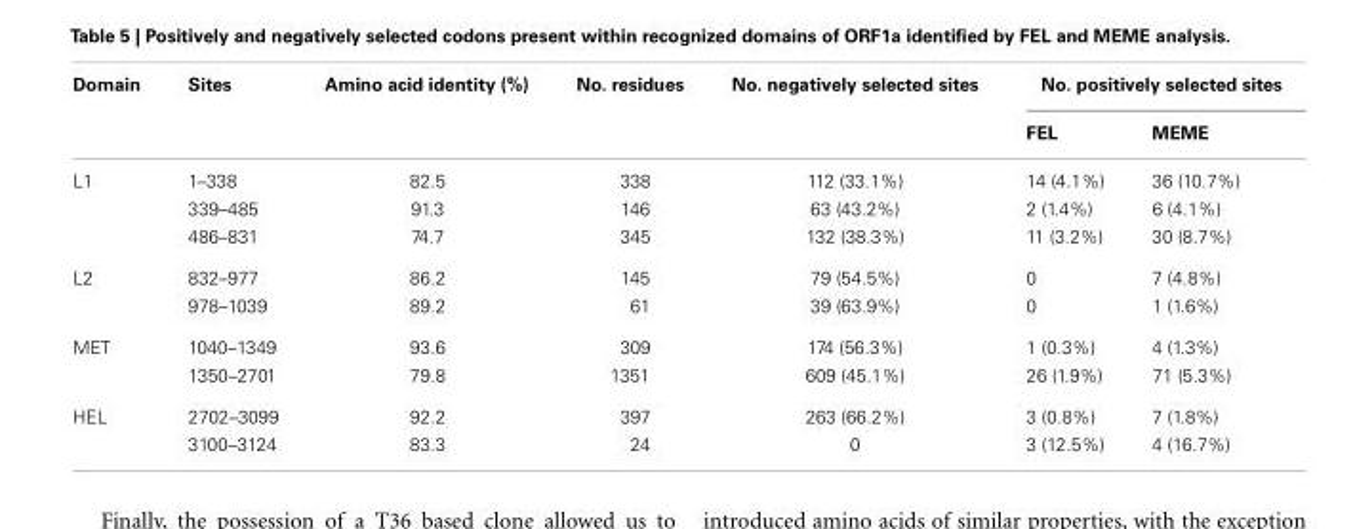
<table><thead><tr><td rowspan="2">Domain</td><td rowspan="2">Sites</td><td rowspan="2">Amino acid identity (%)</td><td rowspan="2">No. residues</td><td rowspan="2">No. negatively selected sites</td><td colspan="2">No. positively selected sites</td></tr><tr><td>FEL</td><td>MEME</td></tr></thead><tbody><tr><td rowspan="3">L1</td><td>1–338</td><td>82.5</td><td>338</td><td>112 (33.1%)</td><td>14 (4.1%)</td><td>36 (10.7%)</td></tr><tr><td>339–485</td><td>91.3</td><td>146</td><td>63 (43.2%)</td><td>2 (1.4%)</td><td>6 (4.1%)</td></tr><tr><td>486–831</td><td>74.7</td><td>345</td><td>132 (38.3%)</td><td>11 (3.2%)</td><td>30 (8.7%)</td></tr><tr><td rowspan="2">L2</td><td>832–977</td><td>86.2</td><td>145</td><td>79 (54.5%)</td><td>0</td><td>7 (4.8%)</td></tr><tr><td>978–1039</td><td>89.2</td><td>61</td><td>39 (63.9%)</td><td>0</td><td>1 (1.6%)</td></tr><tr><td rowspan="2">MET</td><td>1040–1349</td><td>93.6</td><td>309</td><td>174 (56.3%)</td><td>1 (0.3%)</td><td>4 (1.3%)</td></tr><tr><td>1350–2701</td><td>79.8</td><td>1351</td><td>609 (45.1%)</td><td>26 (1.9%)</td><td>71 (5.3%)</td></tr><tr><td rowspan="2">HEL</td><td>2702–3099</td><td>92.2</td><td>397</td><td>263 (66.2%)</td><td>3 (0.8%)</td><td>7 (1.8%)</td></tr><tr><td>3100–3124</td><td>83.3</td><td>24</td><td>0</td><td>3 (12.5%)</td><td>4 (16.7%)</td></tr></tbody></table>